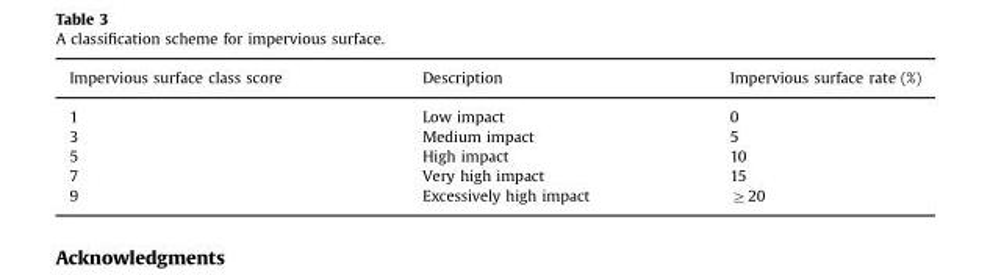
<table><thead><tr><td>Impervious surface class score</td><td>Description</td><td>Impervious surface rate (%)</td></tr></thead><tbody><tr><td>1</td><td>Low impact</td><td>0</td></tr><tr><td>3</td><td>Medium impact</td><td>5</td></tr><tr><td>5</td><td>High impact</td><td>10</td></tr><tr><td>7</td><td>Very high impact</td><td>15</td></tr><tr><td>9</td><td>Excessively high impact</td><td>≥20</td></tr></tbody></table>